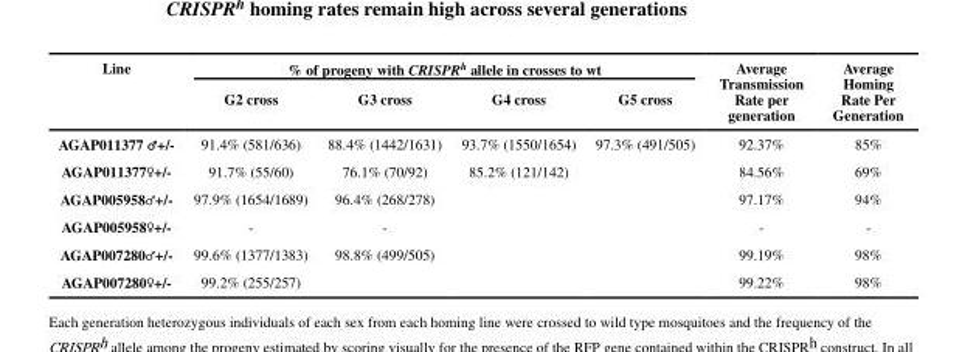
<table><thead><tr><td rowspan="2">Line</td><td colspan="4">% of progeny with CRISPR<sup>h</sup> allele in crosses to wt</td><td rowspan="2">Average Transmission Rate per generation</td><td rowspan="2">Average Homing Rate Per Generation</td></tr><tr><td>G2 cross</td><td>G3 cross</td><td>G4 cross</td><td>G5 cross</td></tr></thead><tbody><tr><td>AGAP011377 ♂+/-</td><td>91.4% (581/636)</td><td>88.4% (1442/1631)</td><td>93.7% (1550/1654)</td><td>97.3% (491/505)</td><td>92.37%</td><td>85%</td></tr><tr><td>AGAP011377♀+/-</td><td>91.7% (55/60)</td><td>76.1% (70/92)</td><td>85.2% (121/142)</td><td></td><td>84.56%</td><td>69%</td></tr><tr><td>AGAP005958♂+/-</td><td>97.9% (1654/1689)</td><td>96.4% (268/278)</td><td></td><td></td><td>97.17%</td><td>94%</td></tr><tr><td>AGAP005958♀+/-</td><td>-</td><td>-</td><td></td><td></td><td>-</td><td>-</td></tr><tr><td>AGAP007280♂+/-</td><td>99.6% (1377/1383)</td><td>98.8% (499/505)</td><td></td><td></td><td>99.19%</td><td>98%</td></tr><tr><td>AGAP007280♀+/-</td><td>99.2% (255/257)</td><td></td><td></td><td></td><td>99.22%</td><td>98%</td></tr></tbody></table>